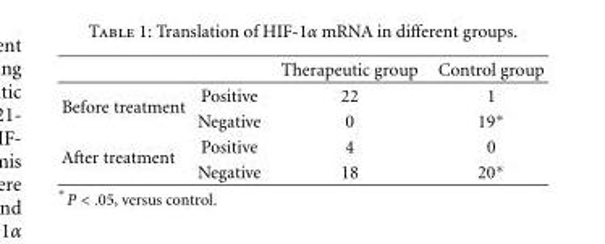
<table><thead><tr><td></td><td></td><td>Therapeutic group</td><td>Control group</td></tr></thead><tbody><tr><td rowspan="2">Before treatment</td><td>Positive</td><td>22</td><td>1</td></tr><tr><td>Negative</td><td>0</td><td>19∗</td></tr><tr><td rowspan="2">After treatment</td><td>Positive</td><td>4</td><td>0</td></tr><tr><td>Negative</td><td>18</td><td>20∗</td></tr></tbody></table>